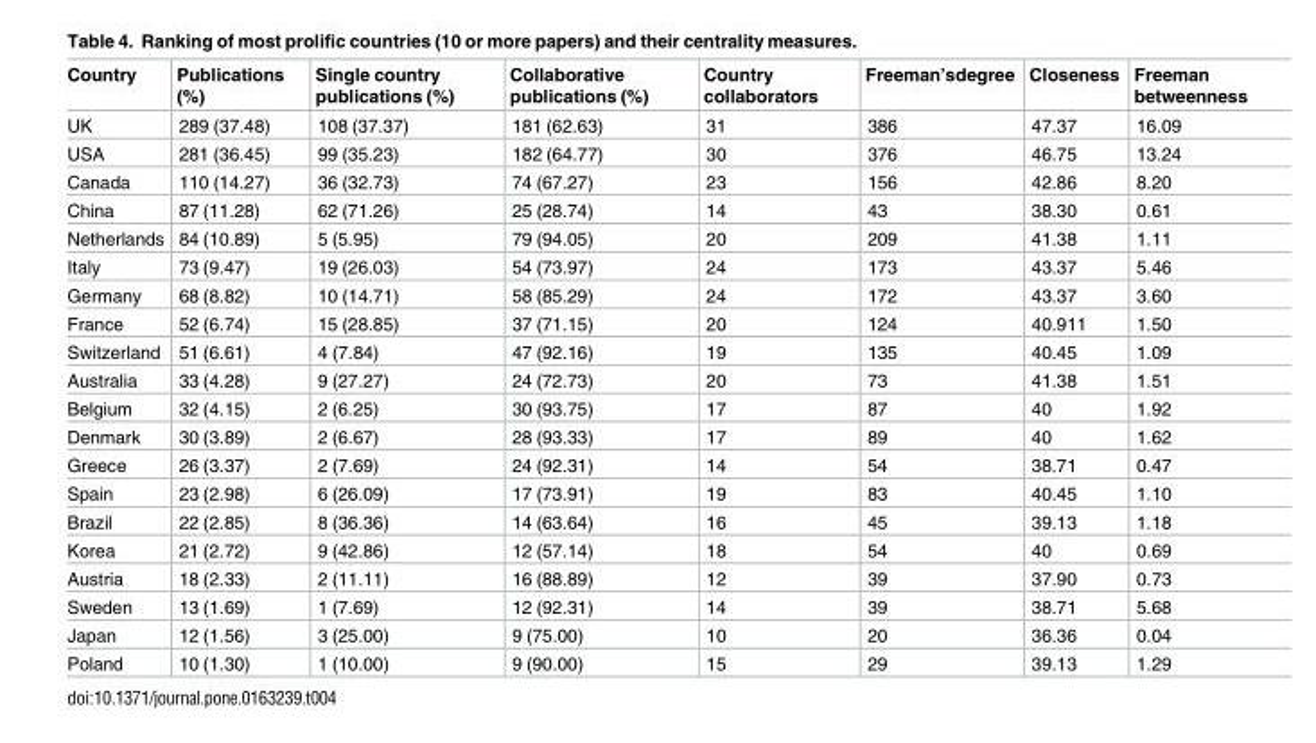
<table><thead><tr><td>Country</td><td>Publications (%)</td><td>Single country publications (%)</td><td>Collaborative publications (%)</td><td>Country collaborators</td><td>Freeman’sdegree</td><td>Closeness</td><td>Freeman betweenness</td></tr></thead><tbody><tr><td>UK</td><td>289 (37.48)</td><td>108 (37.37)</td><td>181 (62.63)</td><td>31</td><td>386</td><td>47.37</td><td>16.09</td></tr><tr><td>USA</td><td>281 (36.45)</td><td>99 (35.23)</td><td>182 (64.77)</td><td>30</td><td>376</td><td>46.75</td><td>13.24</td></tr><tr><td>Canada</td><td>110 (14.27)</td><td>36 (32.73)</td><td>74 (67.27)</td><td>23</td><td>156</td><td>42.86</td><td>8.20</td></tr><tr><td>China</td><td>87 (11.28)</td><td>62 (71.26)</td><td>25 (28.74)</td><td>14</td><td>43</td><td>38.30</td><td>0.61</td></tr><tr><td>Netherlands</td><td>84 (10.89)</td><td>5 (5.95)</td><td>79 (94.05)</td><td>20</td><td>209</td><td>41.38</td><td>1.11</td></tr><tr><td>Italy</td><td>73 (9.47)</td><td>19 (26.03)</td><td>54 (73.97)</td><td>24</td><td>173</td><td>43.37</td><td>5.46</td></tr><tr><td>Germany</td><td>68 (8.82)</td><td>10 (14.71)</td><td>58 (85.29)</td><td>24</td><td>172</td><td>43.37</td><td>3.60</td></tr><tr><td>France</td><td>52 (6.74)</td><td>15 (28.85)</td><td>37 (71.15)</td><td>20</td><td>124</td><td>40.911</td><td>1.50</td></tr><tr><td>Switzerland</td><td>51 (6.61)</td><td>4 (7.84)</td><td>47 (92.16)</td><td>19</td><td>135</td><td>40.45</td><td>1.09</td></tr><tr><td>Australia</td><td>33 (4.28)</td><td>9 (27.27)</td><td>24 (72.73)</td><td>20</td><td>73</td><td>41.38</td><td>1.51</td></tr><tr><td>Belgium</td><td>32 (4.15)</td><td>2 (6.25)</td><td>30 (93.75)</td><td>17</td><td>87</td><td>40</td><td>1.92</td></tr><tr><td>Denmark</td><td>30 (3.89)</td><td>2 (6.67)</td><td>28 (93.33)</td><td>17</td><td>89</td><td>40</td><td>1.62</td></tr><tr><td>Greece</td><td>26 (3.37)</td><td>2 (7.69)</td><td>24 (92.31)</td><td>14</td><td>54</td><td>38.71</td><td>0.47</td></tr><tr><td>Spain</td><td>23 (2.98)</td><td>6 (26.09)</td><td>17 (73.91)</td><td>19</td><td>83</td><td>40.45</td><td>1.10</td></tr><tr><td>Brazil</td><td>22 (2.85)</td><td>8 (36.36)</td><td>14 (63.64)</td><td>16</td><td>45</td><td>39.13</td><td>1.18</td></tr><tr><td>Korea</td><td>21 (2.72)</td><td>9 (42.86)</td><td>12 (57.14)</td><td>18</td><td>54</td><td>40</td><td>0.69</td></tr><tr><td>Austria</td><td>18 (2.33)</td><td>2 (11.11)</td><td>16 (88.89)</td><td>12</td><td>39</td><td>37.90</td><td>0.73</td></tr><tr><td>Sweden</td><td>13 (1.69)</td><td>1 (7.69)</td><td>12 (92.31)</td><td>14</td><td>39</td><td>38.71</td><td>5.68</td></tr><tr><td>Japan</td><td>12 (1.56)</td><td>3 (25.00)</td><td>9 (75.00)</td><td>10</td><td>20</td><td>36.36</td><td>0.04</td></tr><tr><td>Poland</td><td>10 (1.30)</td><td>1 (10.00)</td><td>9 (90.00)</td><td>15</td><td>29</td><td>39.13</td><td>1.29</td></tr></tbody></table>